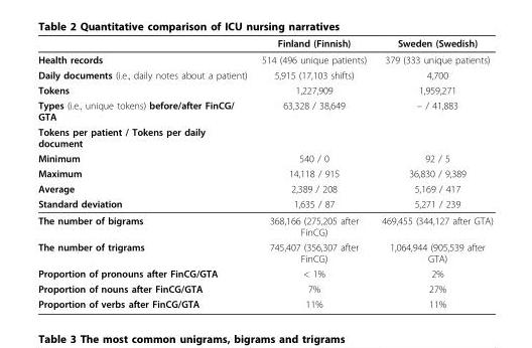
<table><thead><tr><td></td><td>Finland (Finnish)</td><td>Sweden (Swedish)</td></tr></thead><tbody><tr><td>Health records</td><td>514 (496 unique patients)</td><td>379 (333 unique patients)</td></tr><tr><td>Daily documents (i.e., daily notes about a patient)</td><td>5,915 (17,103 shifts)</td><td>4,700</td></tr><tr><td>Tokens</td><td>1,227,909</td><td>1,959,271</td></tr><tr><td>Types (i.e., unique tokens) before/after FinCG/ GTA</td><td>63,328 / 38,649</td><td>– / 41,883</td></tr><tr><td colspan="3">Tokens per patient / Tokens per daily document</td></tr><tr><td>Minimum</td><td>540 / 0</td><td>92 / 5</td></tr><tr><td>Maximum</td><td>14,118 / 915</td><td>36,830 / 9,389</td></tr><tr><td>Average</td><td>2,389 / 208</td><td>5,169 / 417</td></tr><tr><td>Standard deviation</td><td>1,635 / 87</td><td>5,271 / 239</td></tr><tr><td>The number of bigrams</td><td>368,166 (275,205 after FinCG)</td><td>469,455 (344,127 after GTA)</td></tr><tr><td>The number of trigrams</td><td>745,407 (356,307 after FinCG)</td><td>1,064,944 (905,539 after GTA)</td></tr><tr><td>Proportion of pronouns after FinCG/GTA</td><td>&lt; 1%</td><td>2%</td></tr><tr><td>Proportion of nouns after FinCG/GTA</td><td>7%</td><td>27%</td></tr><tr><td>Proportion of verbs after FinCG/GTA</td><td>11%</td><td>11%</td></tr></tbody></table>